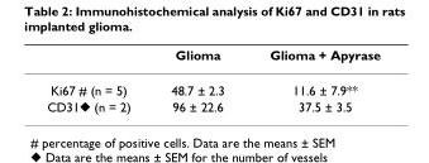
<table><thead><tr><td></td><td>Glioma</td><td>Glioma + Apyrase</td></tr></thead><tbody><tr><td>Ki67 # (n = 5)</td><td>48.7 ± 2.3</td><td>11.6 ± 7.9**</td></tr><tr><td>CD31◆ (n = 2)</td><td>96 ± 22.6</td><td>37.5 ± 3.5</td></tr></tbody></table>